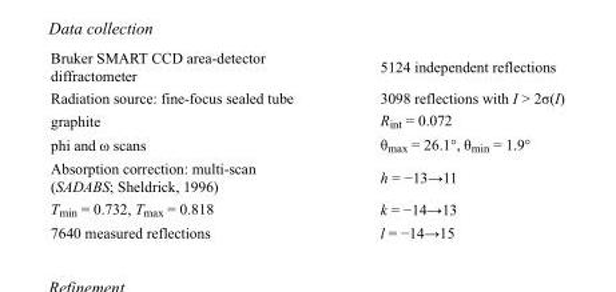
<table><tbody><tr><td>Bruker SMART CCD area-detector diffractometer</td><td>5124 independent reflections</td></tr><tr><td>Radiation source: fine-focus sealed tube</td><td>3098 reflections with I &gt; 2σ(I)</td></tr><tr><td>graphite</td><td>R<sub>int</sub> = 0.072</td></tr><tr><td>phi and ω scans</td><td>θ<sub>max</sub> = 26.1°, θ<sub>min</sub> = 1.9°</td></tr><tr><td>Absorption correction: multi-scan (SADABS; Sheldrick, 1996)</td><td>h = −13→11</td></tr><tr><td>T<sub>min</sub> = 0.732, T<sub>max</sub> = 0.818</td><td>k = −14→13</td></tr><tr><td>7640 measured reflections</td><td>l = −14→15</td></tr></tbody></table>